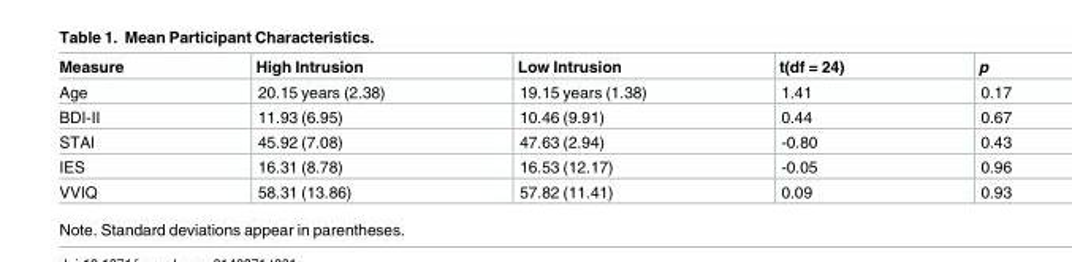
<table><thead><tr><td>Measure</td><td>High Intrusion</td><td>Low Intrusion</td><td>t(df = 24)</td><td>p</td></tr></thead><tbody><tr><td>Age</td><td>20.15 years (2.38)</td><td>19.15 years (1.38)</td><td>1.41</td><td>0.17</td></tr><tr><td>BDI-II</td><td>11.93 (6.95)</td><td>10.46 (9.91)</td><td>0.44</td><td>0.67</td></tr><tr><td>STAI</td><td>45.92 (7.08)</td><td>47.63 (2.94)</td><td>-0.80</td><td>0.43</td></tr><tr><td>IES</td><td>16.31 (8.78)</td><td>16.53 (12.17)</td><td>-0.05</td><td>0.96</td></tr><tr><td>VVIQ</td><td>58.31 (13.86)</td><td>57.82 (11.41)</td><td>0.09</td><td>0.93</td></tr></tbody></table>